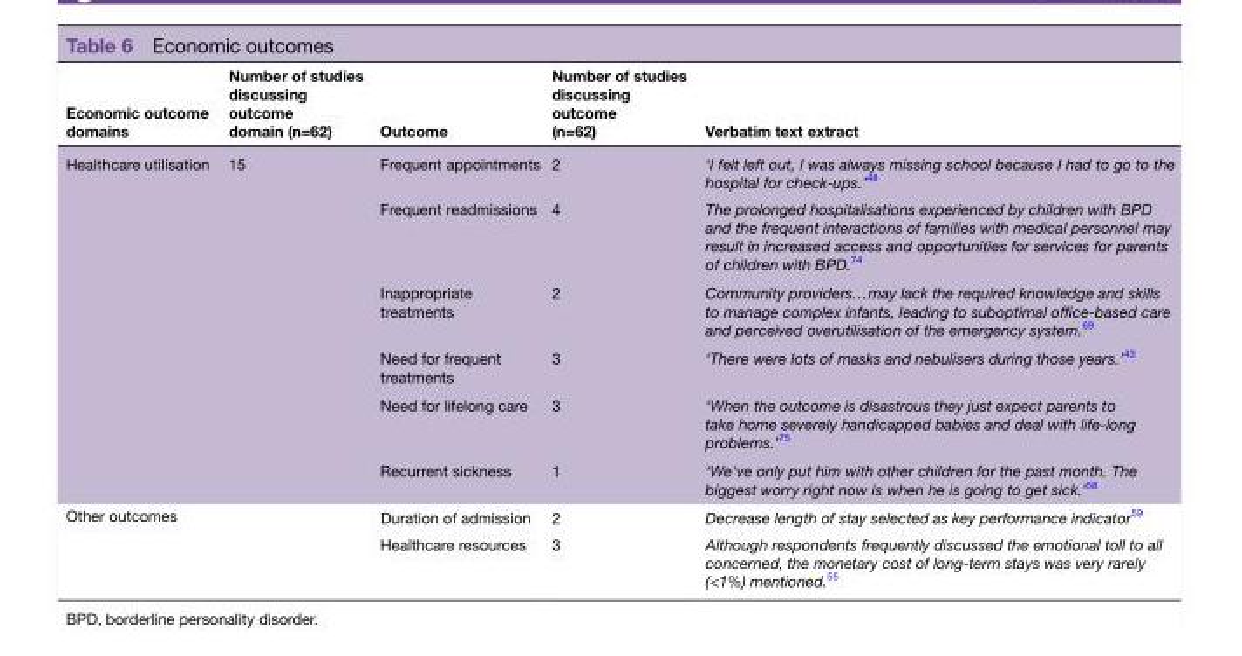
<table><thead><tr><td>Economic outcome domains</td><td>Number of studies discussing outcome domain (n=62)</td><td>Outcome</td><td>Number of studies discussing outcome (n=62)</td><td>Verbatim text extract</td></tr></thead><tbody><tr><td rowspan="6">Healthcare utilisation</td><td rowspan="6">15</td><td>Frequent appointments</td><td>2</td><td>‘I felt left out, I was always missing school because I had to go to the hospital for check-ups.’48</td></tr><tr><td>Frequent readmissions</td><td>4</td><td>The prolonged hospitalisations experienced by children with BPD and the frequent interactions of families with medical personnel may result in increased access and opportunities for services for parents of children with BPD.74</td></tr><tr><td>Inappropriate treatments</td><td>2</td><td>Community providers…may lack the required knowledge and skills to manage complex infants, leading to suboptimal office-based care and perceived overutilisation of the emergency system.69</td></tr><tr><td>Need for frequent treatments</td><td>3</td><td>‘There were lots of masks and nebulisers during those years.’43</td></tr><tr><td>Need for lifelong care</td><td>3</td><td>‘When the outcome is disastrous they just expect parents to take home severely handicapped babies and deal with life-long problems.’75</td></tr><tr><td>Recurrent sickness</td><td>1</td><td>‘We&#x27;ve only put him with other children for the past month. The biggest worry right now is when he is going to get sick.’58</td></tr><tr><td rowspan="2">Other outcomes</td><td rowspan="2"></td><td>Duration of admission</td><td>2</td><td>Decrease length of stay selected as key performance indicator59</td></tr><tr><td>Healthcare resources</td><td>3</td><td>Although respondents frequently discussed the emotional toll to all concerned, the monetary cost of long-term stays was very rarely (&lt;1%) mentioned.55</td></tr></tbody></table>